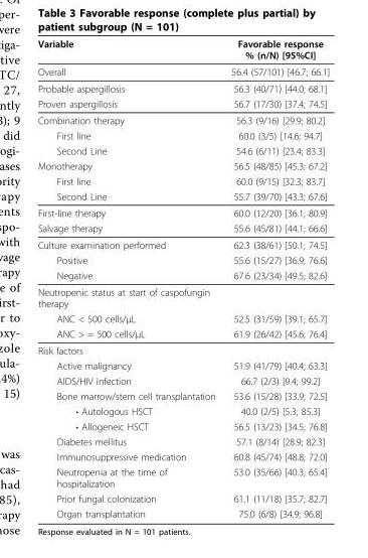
<table><thead><tr><td>Variable</td><td>Favorable response % (n/N) [95%CI]</td></tr></thead><tbody><tr><td>Overall</td><td>56.4 (57/101) [46.7; 66.1]</td></tr><tr><td>Probable aspergillosis</td><td>56.3 (40/71) [44.0; 68.1]</td></tr><tr><td>Proven aspergillosis</td><td>56.7 (17/30) [37.4; 74.5]</td></tr><tr><td>Combination therapy</td><td>56.3 (9/16) [29.9; 80.2]</td></tr><tr><td>First line</td><td>60.0 (3/5) [14.6; 94.7]</td></tr><tr><td>Second Line</td><td>54.6 (6/11) [23.4; 83.3]</td></tr><tr><td>Monotherapy</td><td>56.5 (48/85) [45.3; 67.2]</td></tr><tr><td>First line</td><td>60.0 (9/15) [32.3; 83.7]</td></tr><tr><td>Second Line</td><td>55.7 (39/70) [43.3; 67.6]</td></tr><tr><td>First-line therapy</td><td>60.0 (12/20) [36.1; 80.9]</td></tr><tr><td>Salvage therapy</td><td>55.6 (45/81) [44.1; 66.6]</td></tr><tr><td>Culture examination performed</td><td>62.3 (38/61) [50.1; 74.5]</td></tr><tr><td>Positive</td><td>55.6 (15/27) [36.9; 76.6]</td></tr><tr><td>Negative</td><td>67.6 (23/34) [49.5; 82.6]</td></tr><tr><td colspan="2">Neutropenic status at start of caspofungin therapy</td></tr><tr><td>ANC &lt; 500 cells/μL</td><td>52.5 (31/59) [39.1; 65.7]</td></tr><tr><td>ANC &gt; = 500 cells/μL</td><td>61.9 (26/42) [45.6; 76.4]</td></tr><tr><td colspan="2">Risk factors</td></tr><tr><td>Active malignancy</td><td>51.9 (41/79) [40.4; 63.3]</td></tr><tr><td>AIDS/HIV infection</td><td>66.7 (2/3) [9.4; 99.2]</td></tr><tr><td>Bone marrow/stem cell transplantation</td><td>53.6 (15/28) [33.9; 72.5]</td></tr><tr><td>• Autologous HSCT</td><td>40.0 (2/5) [5.3; 85.3]</td></tr><tr><td>• Allogeneic HSCT</td><td>56.5 (13/23) [34.5; 76.8]</td></tr><tr><td>Diabetes mellitus</td><td>57.1 (8/14) [28.9; 82.3]</td></tr><tr><td>Immunosuppressive medication</td><td>60.8 (45/74) [48.8; 72.0]</td></tr><tr><td>Neutropenia at the time of hospitalization</td><td>53.0 (35/66) [40.3; 65.4]</td></tr><tr><td>Prior fungal colonization</td><td>61.1 (11/18) [35.7; 82.7]</td></tr><tr><td>Organ transplantation</td><td>75.0 (6/8) [34.9; 96.8]</td></tr></tbody></table>